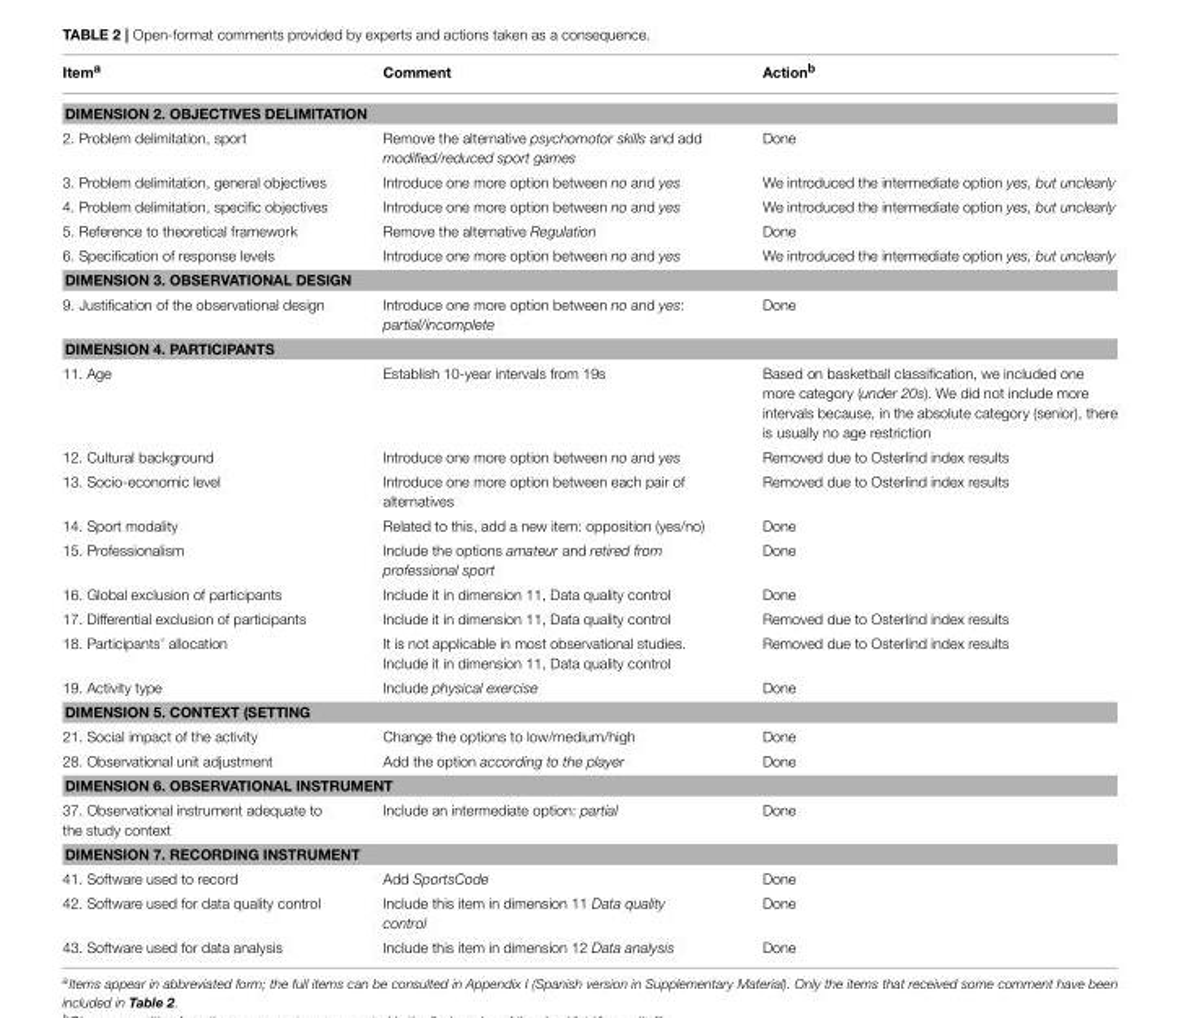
<table><thead><tr><td>Item<sup>a</sup></td><td>Comment</td><td>Action<sup>b</sup></td></tr></thead><tbody><tr><td colspan="3">DIMENSION 2. OBJECTIVES DELIMITATION</td></tr><tr><td>2. Problem delimitation, sport</td><td>Remove the alternative psychomotor skills and add modified/reduced sport games</td><td>Done</td></tr><tr><td>3. Problem delimitation, general objectives</td><td>Introduce one more option between no and yes</td><td>We introduced the intermediate option yes, but unclearly</td></tr><tr><td>4. Problem delimitation, specific objectives</td><td>Introduce one more option between no and yes</td><td>We introduced the intermediate option yes, but unclearly</td></tr><tr><td>5. Reference to theoretical framework</td><td>Remove the alternative Regulation</td><td>Done</td></tr><tr><td>6. Specification of response levels</td><td>Introduce one more option between no and yes</td><td>We introduced the intermediate option yes, but unclearly</td></tr><tr><td colspan="3">DIMENSION 3. OBSERVATIONAL DESIGN</td></tr><tr><td>9. Justification of the observational design</td><td>Introduce one more option between no and yes: partial/incomplete</td><td>Done</td></tr><tr><td colspan="3">DIMENSION 4. PARTICIPANTS</td></tr><tr><td>11. Age</td><td>Establish 10-year intervals from 19s</td><td>Based on basketball classification, we included one more category (under 20s). We did not include more intervals because, in the absolute category (senior), there is usually no age restriction</td></tr><tr><td>12. Cultural background</td><td>Introduce one more option between no and yes</td><td>Removed due to Osterlind index results</td></tr><tr><td>13. Socio-economic level</td><td>Introduce one more option between each pair of alternatives</td><td>Removed due to Osterlind index results</td></tr><tr><td>14. Sport modality</td><td>Related to this, add a new item: opposition (yes/no)</td><td>Done</td></tr><tr><td>15. Professionalism</td><td>Include the options amateur and retired from professional sport</td><td>Done</td></tr><tr><td>16. Global exclusion of participants</td><td>Include it in dimension 11, Data quality control</td><td>Done</td></tr><tr><td>17. Differential exclusion of participants</td><td>Include it in dimension 11, Data quality control</td><td>Removed due to Osterlind index results</td></tr><tr><td>18. Participants’ allocation</td><td>It is not applicable in most observational studies. Include it in dimension 11, Data quality control</td><td>Removed due to Osterlind index results</td></tr><tr><td>19. Activity type</td><td>Include physical exercise</td><td>Done</td></tr><tr><td colspan="3">DIMENSION 5. CONTEXT (SETTING</td></tr><tr><td>21. Social impact of the activity</td><td>Change the options to low/medium/high</td><td>Done</td></tr><tr><td>28. Observational unit adjustment</td><td>Add the option according to the player</td><td>Done</td></tr><tr><td colspan="3">DIMENSION 6. OBSERVATIONAL INSTRUMENT</td></tr><tr><td>37. Observational instrument adequate to the study context</td><td>Include an intermediate option: partial</td><td>Done</td></tr><tr><td colspan="3">DIMENSION 7. RECORDING INSTRUMENT</td></tr><tr><td>41. Software used to record</td><td>Add SportsCode</td><td>Done</td></tr><tr><td>42. Software used for data quality control</td><td>Include this item in dimension 11 Data quality control</td><td>Done</td></tr><tr><td>43. Software used for data analysis</td><td>Include this item in dimension 12 Data analysis</td><td>Done</td></tr></tbody></table>